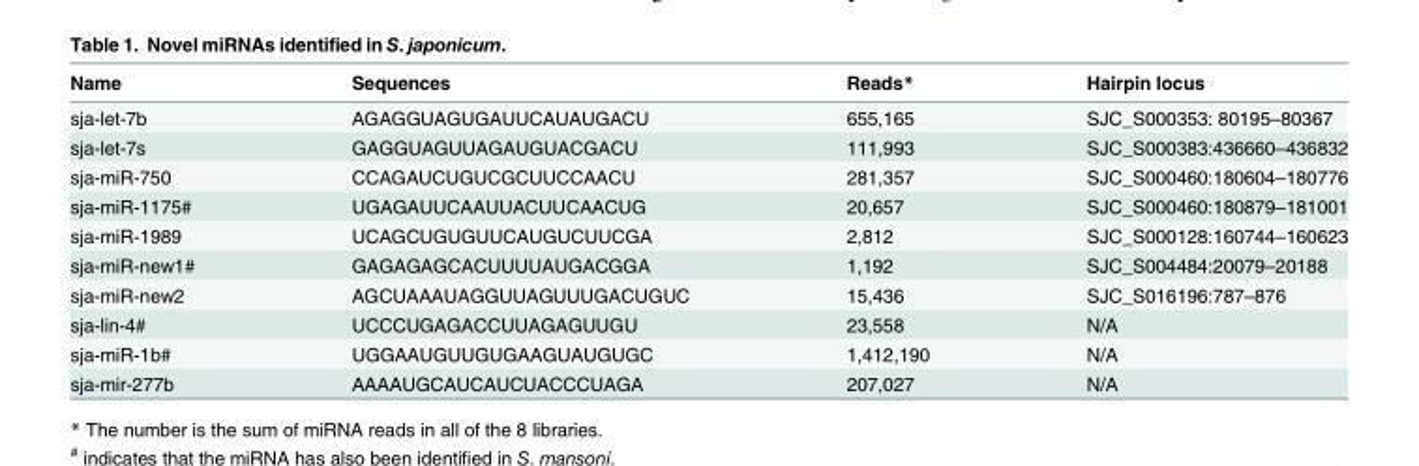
<table><thead><tr><td>Name</td><td>Sequences</td><td>Reads*</td><td>Hairpin locus</td></tr></thead><tbody><tr><td>sja-let-7b</td><td>AGAGGUAGUGAUUCAUAUGACU</td><td>655,165</td><td>SJC_S000353: 80195–80367</td></tr><tr><td>sja-let-7s</td><td>GAGGUAGUUAGAUGUACGACU</td><td>111,993</td><td>SJC_S000383:436660–436832</td></tr><tr><td>sja-miR-750</td><td>CCAGAUCUGUCGCUUCCAACU</td><td>281,357</td><td>SJC_S000460:180604–180776</td></tr><tr><td>sja-miR-1175#</td><td>UGAGAUUCAAUUACUUCAACUG</td><td>20,657</td><td>SJC_S000460:180879–181001</td></tr><tr><td>sja-miR-1989</td><td>UCAGCUGUGUUCAUGUCUUCGA</td><td>2,812</td><td>SJC_S000128:160744–160623</td></tr><tr><td>sja-miR-new1#</td><td>GAGAGAGCACUUUUAUGACGGA</td><td>1,192</td><td>SJC_S004484:20079–20188</td></tr><tr><td>sja-miR-new2</td><td>AGCUAAAUAGGUUAGUUUGACUGUC</td><td>15,436</td><td>SJC_S016196:787–876</td></tr><tr><td>sja-lin-4#</td><td>UCCCUGAGACCUUAGAGUUGU</td><td>23,558</td><td>N/A</td></tr><tr><td>sja-miR-1b#</td><td>UGGAAUGUUGUGAAGUAUGUGC</td><td>1,412,190</td><td>N/A</td></tr><tr><td>sja-mir-277b</td><td>AAAAUGCAUCAUCUACCCUAGA</td><td>207,027</td><td>N/A</td></tr></tbody></table>